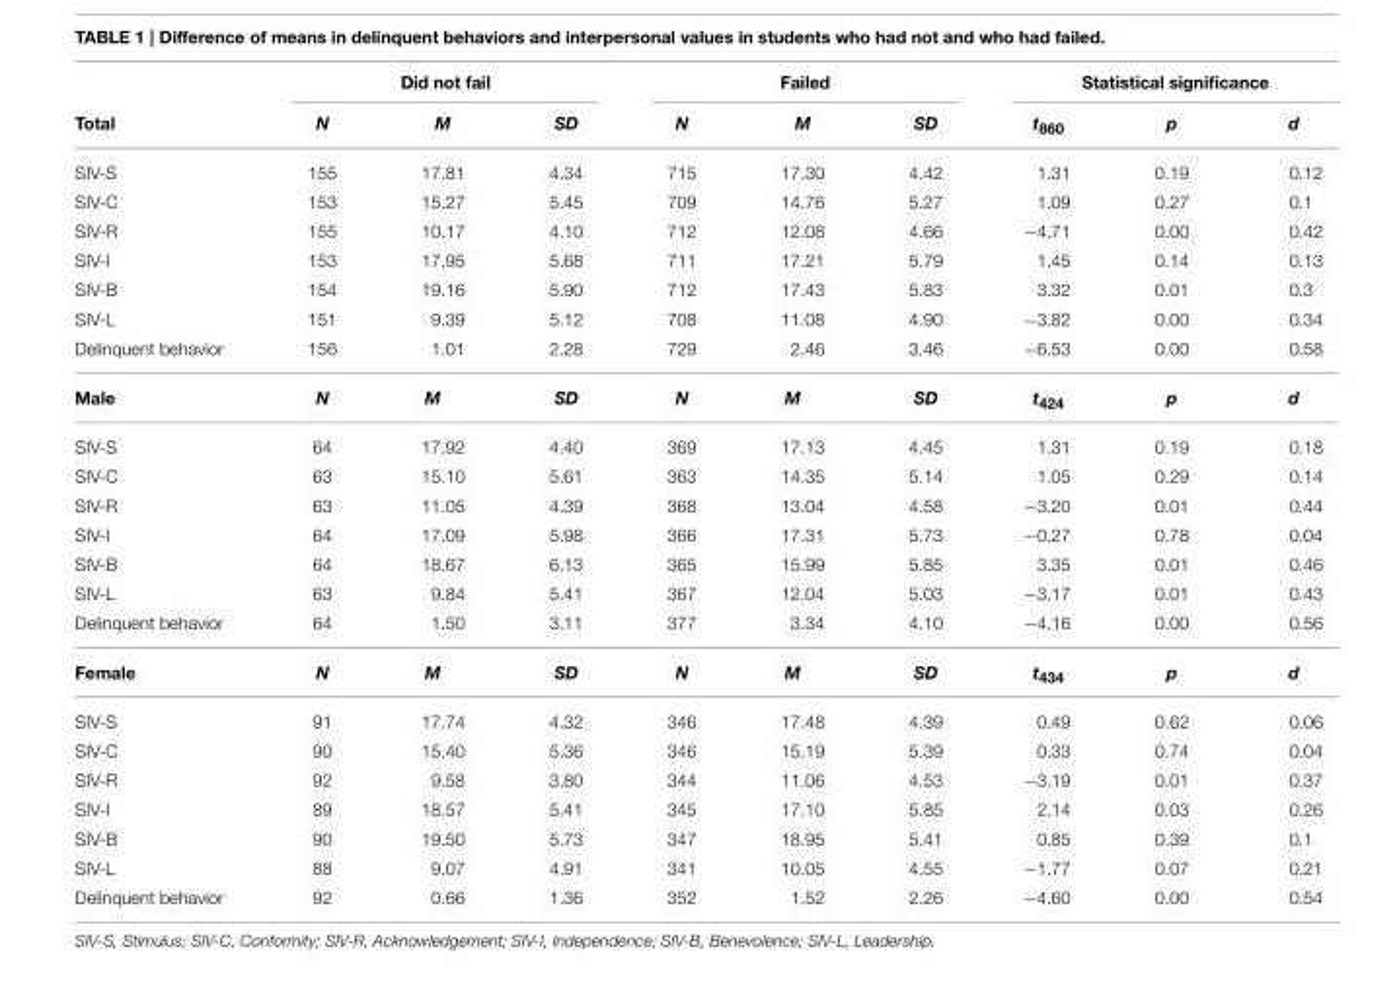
<table><thead><tr><td rowspan="2">Total</td><td colspan="3">Did not fail</td><td colspan="3">Failed</td><td colspan="3">Statistical significance</td></tr><tr><td>N</td><td>M</td><td>SD</td><td>N</td><td>M</td><td>SD</td><td>t<sub>860</sub></td><td>p</td><td>d</td></tr></thead><tbody><tr><td>SIV-S</td><td>155</td><td>17.81</td><td>4.34</td><td>715</td><td>17.30</td><td>4.42</td><td>1.31</td><td>0.19</td><td>0.12</td></tr><tr><td>SIV-C</td><td>153</td><td>15.27</td><td>5.45</td><td>709</td><td>14.76</td><td>5.27</td><td>1.09</td><td>0.27</td><td>0.1</td></tr><tr><td>SIV-R</td><td>155</td><td>10.17</td><td>4.10</td><td>712</td><td>12.08</td><td>4.66</td><td>−4.71</td><td>0.00</td><td>0.42</td></tr><tr><td>SIV-I</td><td>153</td><td>17.95</td><td>5.68</td><td>711</td><td>17.21</td><td>5.79</td><td>1.45</td><td>0.14</td><td>0.13</td></tr><tr><td>SIV-B</td><td>154</td><td>19.16</td><td>5.90</td><td>712</td><td>17.43</td><td>5.83</td><td>3.32</td><td>0.01</td><td>0.3</td></tr><tr><td>SIV-L</td><td>151</td><td>9.39</td><td>5.12</td><td>708</td><td>11.08</td><td>4.90</td><td>−3.82</td><td>0.00</td><td>0.34</td></tr><tr><td>Delinquent behavior</td><td>156</td><td>1.01</td><td>2.28</td><td>729</td><td>2.46</td><td>3.46</td><td>−6.53</td><td>0.00</td><td>0.58</td></tr><tr><td>Male</td><td>N</td><td>M</td><td>SD</td><td>N</td><td>M</td><td>SD</td><td>t<sub>424</sub></td><td>p</td><td>d</td></tr><tr><td>SIV-S</td><td>64</td><td>17.92</td><td>4.40</td><td>369</td><td>17.13</td><td>4.45</td><td>1.31</td><td>0.19</td><td>0.18</td></tr><tr><td>SIV-C</td><td>63</td><td>15.10</td><td>5.61</td><td>363</td><td>14.35</td><td>5.14</td><td>1.05</td><td>0.29</td><td>0.14</td></tr><tr><td>SIV-R</td><td>63</td><td>11.05</td><td>4.39</td><td>368</td><td>13.04</td><td>4.58</td><td>−3.20</td><td>0.01</td><td>0.44</td></tr><tr><td>SIV-I</td><td>64</td><td>17.09</td><td>5.98</td><td>366</td><td>17.31</td><td>5.73</td><td>−0.27</td><td>0.78</td><td>0.04</td></tr><tr><td>SIV-B</td><td>64</td><td>18.67</td><td>6.13</td><td>365</td><td>15.99</td><td>5.85</td><td>3.35</td><td>0.01</td><td>0.46</td></tr><tr><td>SIV-L</td><td>63</td><td>9.84</td><td>5.41</td><td>367</td><td>12.04</td><td>5.03</td><td>−3.17</td><td>0.01</td><td>0.43</td></tr><tr><td>Delinquent behavior</td><td>64</td><td>1.50</td><td>3.11</td><td>377</td><td>3.34</td><td>4.10</td><td>−4.16</td><td>0.00</td><td>0.56</td></tr><tr><td>Female</td><td>N</td><td>M</td><td>SD</td><td>N</td><td>M</td><td>SD</td><td>t<sub>434</sub></td><td>p</td><td>d</td></tr><tr><td>SIV-S</td><td>91</td><td>17.74</td><td>4.32</td><td>346</td><td>17.48</td><td>4.39</td><td>0.49</td><td>0.62</td><td>0.06</td></tr><tr><td>SIV-C</td><td>90</td><td>15.40</td><td>5.36</td><td>346</td><td>15.19</td><td>5.39</td><td>0.33</td><td>0.74</td><td>0.04</td></tr><tr><td>SIV-R</td><td>92</td><td>9.58</td><td>3.80</td><td>344</td><td>11.06</td><td>4.53</td><td>−3.19</td><td>0.01</td><td>0.37</td></tr><tr><td>SIV-I</td><td>89</td><td>18.57</td><td>5.41</td><td>345</td><td>17.10</td><td>5.85</td><td>2.14</td><td>0.03</td><td>0.26</td></tr><tr><td>SIV-B</td><td>90</td><td>19.50</td><td>5.73</td><td>347</td><td>18.95</td><td>5.41</td><td>0.85</td><td>0.39</td><td>0.1</td></tr><tr><td>SIV-L</td><td>88</td><td>9.07</td><td>4.91</td><td>341</td><td>10.05</td><td>4.55</td><td>−1.77</td><td>0.07</td><td>0.21</td></tr><tr><td>Delinquent behavior</td><td>92</td><td>0.66</td><td>1.36</td><td>352</td><td>1.52</td><td>2.26</td><td>−4.60</td><td>0.00</td><td>0.54</td></tr></tbody></table>